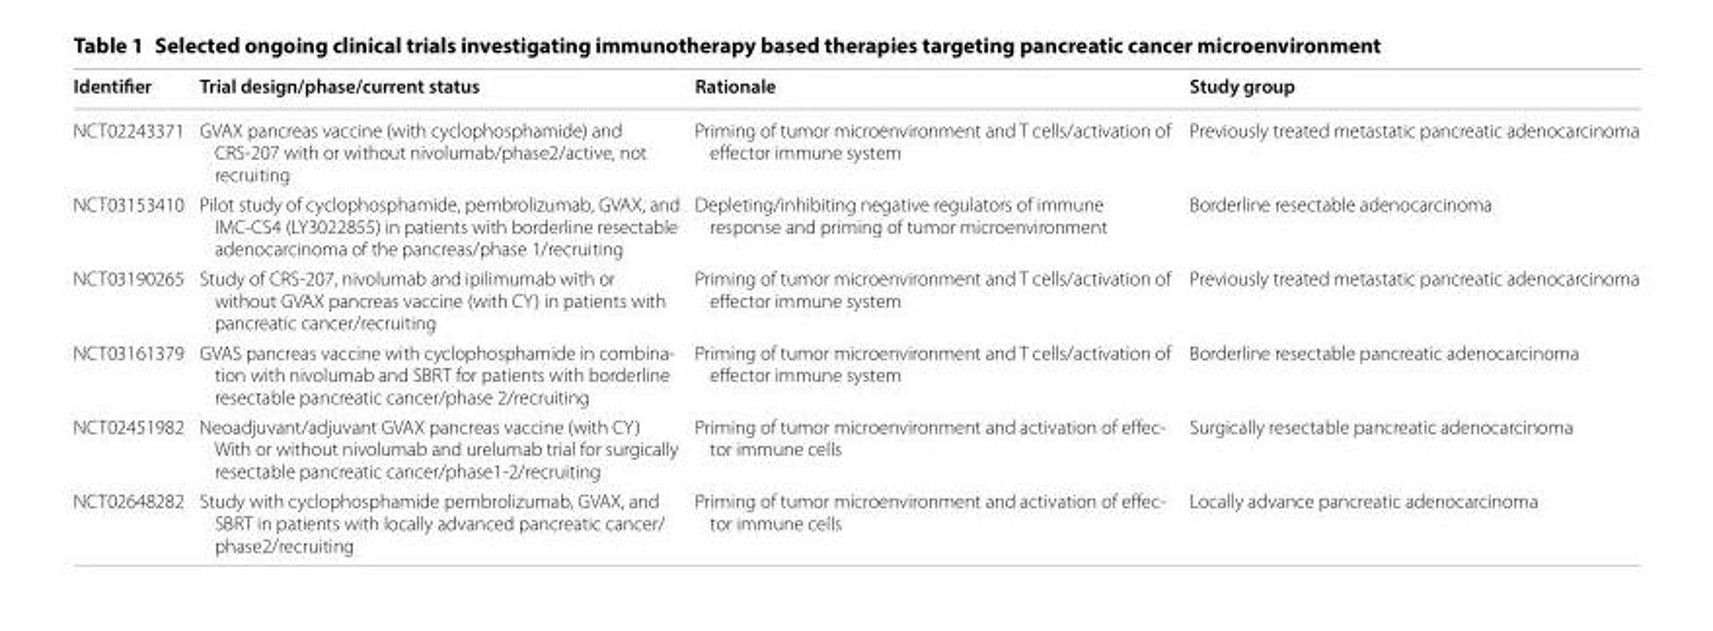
<table><thead><tr><td>Identifier</td><td>Trial design/phase/current status</td><td>Rationale</td><td>Study group</td></tr></thead><tbody><tr><td>NCT02243371</td><td>GVAX pancreas vaccine (with cyclophosphamide) and CRS-207 with or without nivolumab/phase2/active, not recruiting</td><td>Priming of tumor microenvironment and T cells/activation of effector immune system</td><td>Previously treated metastatic pancreatic adenocarcinoma</td></tr><tr><td>NCT03153410</td><td>Pilot study of cyclophosphamide, pembrolizumab, GVAX, and IMC-CS4 (LY3022855) in patients with borderline resectable adenocarcinoma of the pancreas/phase 1/recruiting</td><td>Depleting/inhibiting negative regulators of immune response and priming of tumor microenvironment</td><td>Borderline resectable adenocarcinoma</td></tr><tr><td>NCT03190265</td><td>Study of CRS-207, nivolumab and ipilimumab with or without GVAX pancreas vaccine (with CY) in patients with pancreatic cancer/recruiting</td><td>Priming of tumor microenvironment and T cells/activation of effector immune system</td><td>Previously treated metastatic pancreatic adenocarcinoma</td></tr><tr><td>NCT03161379</td><td>GVAS pancreas vaccine with cyclophosphamide in combina- tion with nivolumab and SBRT for patients with borderline resectable pancreatic cancer/phase 2/recruiting</td><td>Priming of tumor microenvironment and T cells/activation of effector immune system</td><td>Borderline resectable pancreatic adenocarcinoma</td></tr><tr><td>NCT02451982</td><td>Neoadjuvant/adjuvant GVAX pancreas vaccine (with CY) With or without nivolumab and urelumab trial for surgically resectable pancreatic cancer/phase1-2/recruiting</td><td>Priming of tumor microenvironment and activation of effec- tor immune cells</td><td>Surgically resectable pancreatic adenocarcinoma</td></tr><tr><td>NCT02648282</td><td>Study with cyclophosphamide pembrolizumab, GVAX, and SBRT in patients with locally advanced pancreatic cancer/ phase2/recruiting</td><td>Priming of tumor microenvironment and activation of effec- tor immune cells</td><td>Locally advance pancreatic adenocarcinoma</td></tr></tbody></table>